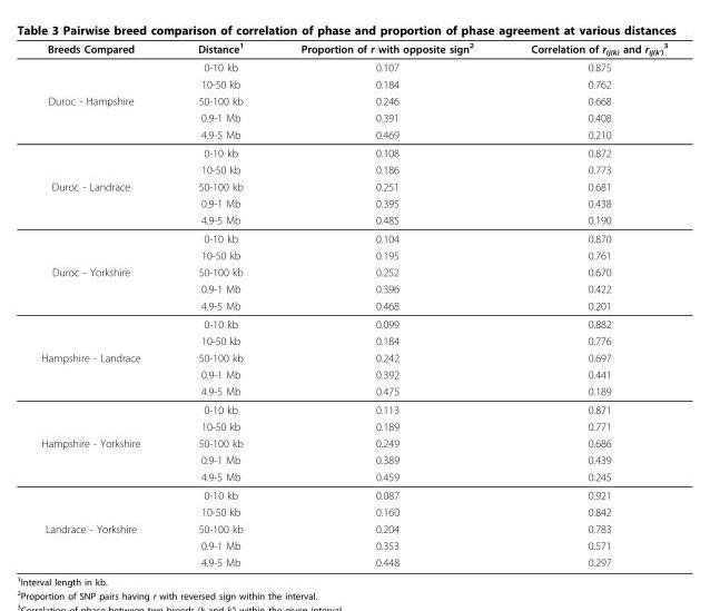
<table><thead><tr><td>Breeds Compared</td><td>Distance<sup>1</sup></td><td>Proportion of r with opposite sign<sup>2</sup></td><td>Correlation of r<sub>ij(k)</sub> and r<sub>ij(k’)</sub> <sup>3</sup></td></tr></thead><tbody><tr><td></td><td>0-10 kb</td><td>0.107</td><td>0.875</td></tr><tr><td></td><td>10-50 kb</td><td>0.184</td><td>0.762</td></tr><tr><td rowspan="5">Duroc - Hampshire</td><td>50-100 kb</td><td>0.246</td><td>0.668</td></tr><tr><td>0.9-1 Mb</td><td>0.391</td><td>0.408</td></tr><tr><td>4.9-5 Mb</td><td>0.469</td><td>0.210</td></tr><tr><td>0-10 kb</td><td>0.108</td><td>0.872</td></tr><tr><td>10-50 kb</td><td>0.186</td><td>0.773</td></tr><tr><td rowspan="5">Duroc - Landrace</td><td>50-100 kb</td><td>0.251</td><td>0.681</td></tr><tr><td>0.9-1 Mb</td><td>0.395</td><td>0.438</td></tr><tr><td>4.9-5 Mb</td><td>0.485</td><td>0.190</td></tr><tr><td>0-10 kb</td><td>0.104</td><td>0.870</td></tr><tr><td>10-50 kb</td><td>0.195</td><td>0.761</td></tr><tr><td rowspan="5">Duroc - Yorkshire</td><td>50-100 kb</td><td>0.252</td><td>0.670</td></tr><tr><td>0.9-1 Mb</td><td>0.396</td><td>0.422</td></tr><tr><td>4.9-5 Mb</td><td>0.468</td><td>0.201</td></tr><tr><td>0-10 kb</td><td>0.099</td><td>0.882</td></tr><tr><td>10-50 kb</td><td>0.184</td><td>0.776</td></tr><tr><td rowspan="5">Hampshire - Landrace</td><td>50-100 kb</td><td>0.242</td><td>0.697</td></tr><tr><td>0.9-1 Mb</td><td>0.392</td><td>0.441</td></tr><tr><td>4.9-5 Mb</td><td>0.475</td><td>0.189</td></tr><tr><td>0-10 kb</td><td>0.113</td><td>0.871</td></tr><tr><td>10-50 kb</td><td>0.189</td><td>0.771</td></tr><tr><td rowspan="5">Hampshire - Yorkshire</td><td>50-100 kb</td><td>0.249</td><td>0.686</td></tr><tr><td>0.9-1 Mb</td><td>0.389</td><td>0.439</td></tr><tr><td>4.9-5 Mb</td><td>0.459</td><td>0.245</td></tr><tr><td>0-10 kb</td><td>0.087</td><td>0.921</td></tr><tr><td>10-50 kb</td><td>0.160</td><td>0.842</td></tr><tr><td rowspan="3">Landrace - Yorkshire</td><td>50-100 kb</td><td>0.204</td><td>0.783</td></tr><tr><td>0.9-1 Mb</td><td>0.353</td><td>0.571</td></tr><tr><td>4.9-5 Mb</td><td>0.448</td><td>0.297</td></tr></tbody></table>